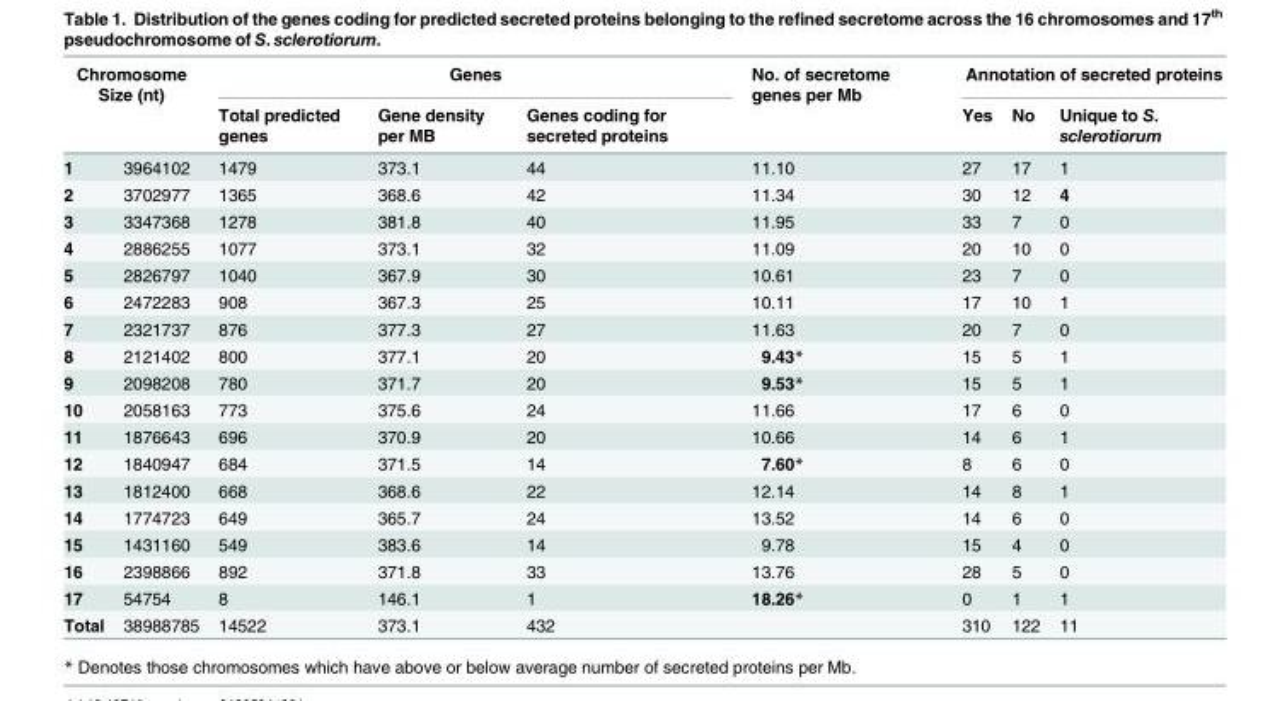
<table><thead><tr><td colspan="2">Chromosome Size (nt)</td><td colspan="3">Genes</td><td rowspan="2">No. of secretome genes per Mb</td><td colspan="3">Annotation of secreted proteins</td></tr><tr><td></td><td></td><td>Total predicted genes</td><td>Gene density per MB</td><td>Genes coding for secreted proteins</td><td>Yes</td><td>No</td><td>Unique to S. sclerotiorum</td></tr></thead><tbody><tr><td>1</td><td>3964102</td><td>1479</td><td>373.1</td><td>44</td><td>11.10</td><td>27</td><td>17</td><td>1</td></tr><tr><td>2</td><td>3702977</td><td>1365</td><td>368.6</td><td>42</td><td>11.34</td><td>30</td><td>12</td><td>4</td></tr><tr><td>3</td><td>3347368</td><td>1278</td><td>381.8</td><td>40</td><td>11.95</td><td>33</td><td>7</td><td>0</td></tr><tr><td>4</td><td>2886255</td><td>1077</td><td>373.1</td><td>32</td><td>11.09</td><td>20</td><td>10</td><td>0</td></tr><tr><td>5</td><td>2826797</td><td>1040</td><td>367.9</td><td>30</td><td>10.61</td><td>23</td><td>7</td><td>0</td></tr><tr><td>6</td><td>2472283</td><td>908</td><td>367.3</td><td>25</td><td>10.11</td><td>17</td><td>10</td><td>1</td></tr><tr><td>7</td><td>2321737</td><td>876</td><td>377.3</td><td>27</td><td>11.63</td><td>20</td><td>7</td><td>0</td></tr><tr><td>8</td><td>2121402</td><td>800</td><td>377.1</td><td>20</td><td>9.43*</td><td>15</td><td>5</td><td>1</td></tr><tr><td>9</td><td>2098208</td><td>780</td><td>371.7</td><td>20</td><td>9.53*</td><td>15</td><td>5</td><td>1</td></tr><tr><td>10</td><td>2058163</td><td>773</td><td>375.6</td><td>24</td><td>11.66</td><td>17</td><td>6</td><td>0</td></tr><tr><td>11</td><td>1876643</td><td>696</td><td>370.9</td><td>20</td><td>10.66</td><td>14</td><td>6</td><td>1</td></tr><tr><td>12</td><td>1840947</td><td>684</td><td>371.5</td><td>14</td><td>7.60*</td><td>8</td><td>6</td><td>0</td></tr><tr><td>13</td><td>1812400</td><td>668</td><td>368.6</td><td>22</td><td>12.14</td><td>14</td><td>8</td><td>1</td></tr><tr><td>14</td><td>1774723</td><td>649</td><td>365.7</td><td>24</td><td>13.52</td><td>14</td><td>6</td><td>0</td></tr><tr><td>15</td><td>1431160</td><td>549</td><td>383.6</td><td>14</td><td>9.78</td><td>15</td><td>4</td><td>0</td></tr><tr><td>16</td><td>2398866</td><td>892</td><td>371.8</td><td>33</td><td>13.76</td><td>28</td><td>5</td><td>0</td></tr><tr><td>17</td><td>54754</td><td>8</td><td>146.1</td><td>1</td><td>18.26*</td><td>0</td><td>1</td><td>1</td></tr><tr><td>Total</td><td>38988785</td><td>14522</td><td>373.1</td><td>432</td><td></td><td>310</td><td>122</td><td>11</td></tr></tbody></table>